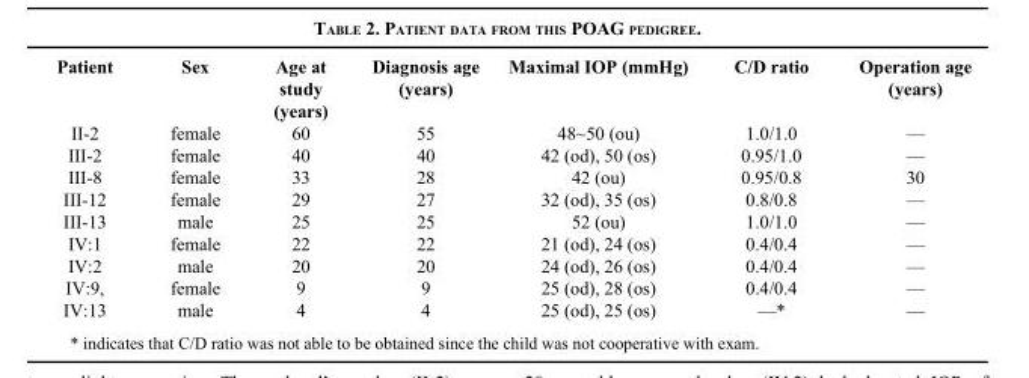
<table><thead><tr><td>Patient</td><td>Sex</td><td>Age at study (years)</td><td>Diagnosis age (years)</td><td>Maximal IOP (mmHg)</td><td>C/D ratio</td><td>Operation age (years)</td></tr></thead><tbody><tr><td>II-2</td><td>female</td><td>60</td><td>55</td><td>48~50 (ou)</td><td>1.0/1.0</td><td>—</td></tr><tr><td>III-2</td><td>female</td><td>40</td><td>40</td><td>42 (od), 50 (os)</td><td>0.95/1.0</td><td>—</td></tr><tr><td>III-8</td><td>female</td><td>33</td><td>28</td><td>42 (ou)</td><td>0.95/0.8</td><td>30</td></tr><tr><td>III-12</td><td>female</td><td>29</td><td>27</td><td>32 (od), 35 (os)</td><td>0.8/0.8</td><td>—</td></tr><tr><td>III-13</td><td>male</td><td>25</td><td>25</td><td>52 (ou)</td><td>1.0/1.0</td><td>—</td></tr><tr><td>IV:1</td><td>female</td><td>22</td><td>22</td><td>21 (od), 24 (os)</td><td>0.4/0.4</td><td>—</td></tr><tr><td>IV:2</td><td>male</td><td>20</td><td>20</td><td>24 (od), 26 (os)</td><td>0.4/0.4</td><td>—</td></tr><tr><td>IV:9,</td><td>female</td><td>9</td><td>9</td><td>25 (od), 28 (os)</td><td>0.4/0.4</td><td>—</td></tr><tr><td>IV:13</td><td>male</td><td>4</td><td>4</td><td>25 (od), 25 (os)</td><td>—*</td><td>—</td></tr></tbody></table>